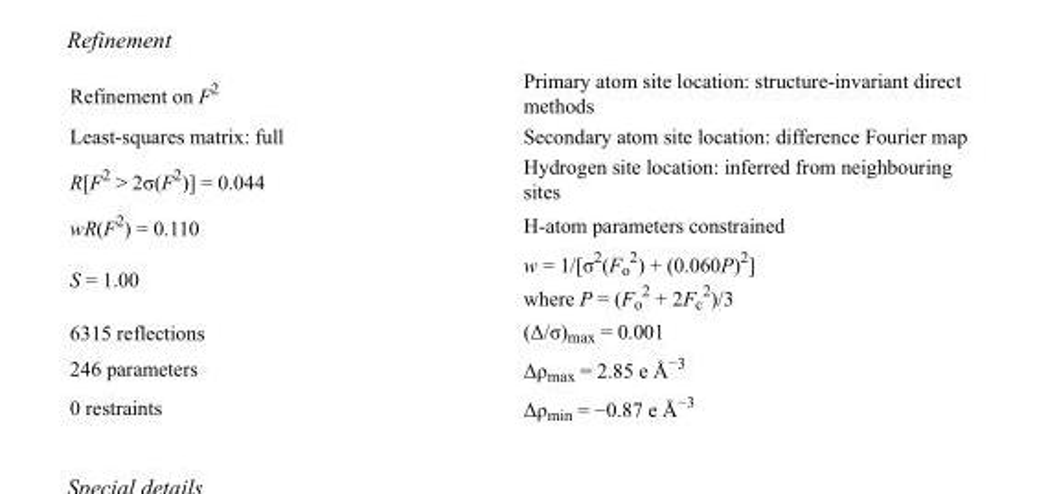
<table><tbody><tr><td>Refinement on F<sup>2</sup></td><td>Primary atom site location: structure-invariant direct methods</td></tr><tr><td>Least-squares matrix: full</td><td>Secondary atom site location: difference Fourier map</td></tr><tr><td>R[F<sup>2</sup> &gt; 2σ(F<sup>2</sup>)] = 0.044</td><td>Hydrogen site location: inferred from neighbouring sites</td></tr><tr><td>wR(F<sup>2</sup>) = 0.110</td><td>H-atom parameters constrained</td></tr><tr><td>S = 1.00</td><td>w = 1/[σ<sup>2</sup>(F<sub>o</sub> <sup>2</sup>) + (0.060P)<sup>2</sup>] where P = (F<sub>o</sub> <sup>2</sup> + 2F<sub>c</sub> <sup>2</sup>)/3</td></tr><tr><td>6315 reflections</td><td>(Δ/σ)<sub>max</sub> = 0.001</td></tr><tr><td>246 parameters</td><td>Δρ<sub>max</sub> = 2.85 e Å<sup>−3</sup></td></tr><tr><td>0 restraints</td><td>Δρ<sub>min</sub> = −0.87 e Å<sup>−3</sup></td></tr></tbody></table>